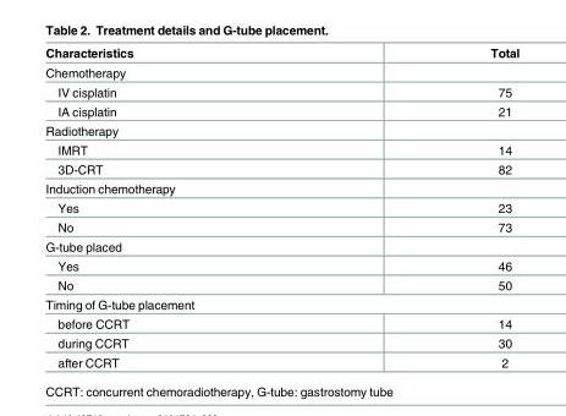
<table><thead><tr><td>Characteristics</td><td>Total</td></tr></thead><tbody><tr><td colspan="2">Chemotherapy</td></tr><tr><td>IV cisplatin</td><td>75</td></tr><tr><td>IA cisplatin</td><td>21</td></tr><tr><td colspan="2">Radiotherapy</td></tr><tr><td>IMRT</td><td>14</td></tr><tr><td>3D-CRT</td><td>82</td></tr><tr><td colspan="2">Induction chemotherapy</td></tr><tr><td>Yes</td><td>23</td></tr><tr><td>No</td><td>73</td></tr><tr><td colspan="2">G-tube placed</td></tr><tr><td>Yes</td><td>46</td></tr><tr><td>No</td><td>50</td></tr><tr><td colspan="2">Timing of G-tube placement</td></tr><tr><td>before CCRT</td><td>14</td></tr><tr><td>during CCRT</td><td>30</td></tr><tr><td>after CCRT</td><td>2</td></tr></tbody></table>